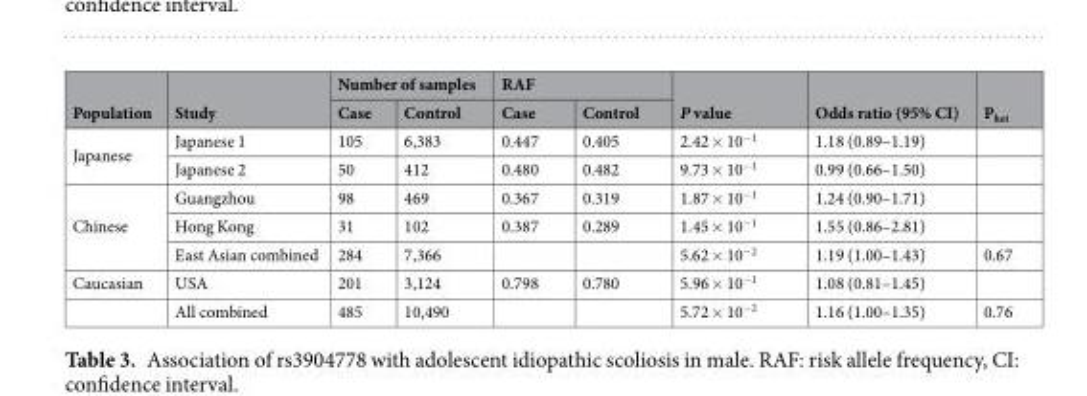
<table><thead><tr><td rowspan="2">Population</td><td rowspan="2">Study</td><td colspan="2">Number of samples</td><td colspan="2">RAF</td><td rowspan="2">P value</td><td rowspan="2">Odds ratio (95% CI)</td><td rowspan="2">P<sub>het</sub></td></tr><tr><td>Case</td><td>Control</td><td>Case</td><td>Control</td></tr></thead><tbody><tr><td rowspan="2">Japanese</td><td>Japanese 1</td><td>105</td><td>6,383</td><td>0.447</td><td>0.405</td><td>2.42 × 10<sup>−1</sup></td><td>1.18 (0.89–1.19)</td><td></td></tr><tr><td>Japanese 2</td><td>50</td><td>412</td><td>0.480</td><td>0.482</td><td>9.73 × 10<sup>−1</sup></td><td>0.99 (0.66–1.50)</td><td></td></tr><tr><td rowspan="3">Chinese</td><td>Guangzhou</td><td>98</td><td>469</td><td>0.367</td><td>0.319</td><td>1.87 × 10<sup>−1</sup></td><td>1.24 (0.90–1.71)</td><td></td></tr><tr><td>Hong Kong</td><td>31</td><td>102</td><td>0.387</td><td>0.289</td><td>1.45 × 10<sup>−1</sup></td><td>1.55 (0.86–2.81)</td><td></td></tr><tr><td>East Asian combined</td><td>284</td><td>7,366</td><td></td><td></td><td>5.62 × 10<sup>−2</sup></td><td>1.19 (1.00–1.43)</td><td>0.67</td></tr><tr><td rowspan="2">Caucasian</td><td>USA</td><td>201</td><td>3,124</td><td>0.798</td><td>0.780</td><td>5.96 × 10<sup>−1</sup></td><td>1.08 (0.81–1.45)</td><td></td></tr><tr><td>All combined</td><td>485</td><td>10,490</td><td></td><td></td><td>5.72 × 10<sup>−2</sup></td><td>1.16 (1.00–1.35)</td><td>0.76</td></tr></tbody></table>